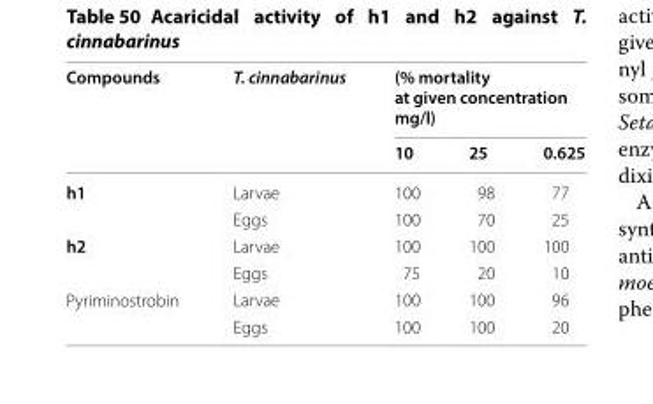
<table><thead><tr><td rowspan="2">Compounds</td><td rowspan="2">T. cinnabarinus</td><td colspan="3">(% mortality at given concentration mg/l)</td></tr><tr><td>10</td><td>25</td><td>0.625</td></tr></thead><tbody><tr><td rowspan="2">h1</td><td>Larvae</td><td>100</td><td>98</td><td>77</td></tr><tr><td>Eggs</td><td>100</td><td>70</td><td>25</td></tr><tr><td rowspan="2">h2</td><td>Larvae</td><td>100</td><td>100</td><td>100</td></tr><tr><td>Eggs</td><td>75</td><td>20</td><td>10</td></tr><tr><td rowspan="2">Pyriminostrobin</td><td>Larvae</td><td>100</td><td>100</td><td>96</td></tr><tr><td>Eggs</td><td>100</td><td>100</td><td>20</td></tr></tbody></table>